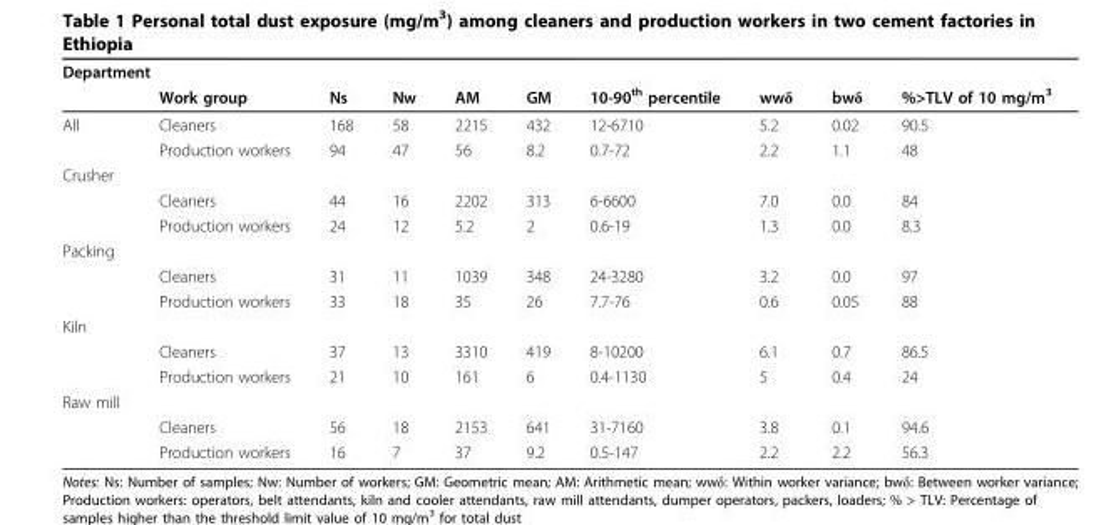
<table><thead><tr><td colspan="10">Department</td></tr><tr><td></td><td>Work group</td><td>Ns</td><td>Nw</td><td>AM</td><td>GM</td><td>10-90<sup>th</sup> percentile</td><td>wwδ</td><td>bwδ</td><td>%&gt;TLV of 10 mg/m<sup>3</sup></td></tr></thead><tbody><tr><td rowspan="2">All</td><td>Cleaners</td><td>168</td><td>58</td><td>2215</td><td>432</td><td>12-6710</td><td>5.2</td><td>0.02</td><td>90.5</td></tr><tr><td>Production workers</td><td>94</td><td>47</td><td>56</td><td>8.2</td><td>0.7-72</td><td>2.2</td><td>1.1</td><td>48</td></tr><tr><td colspan="10">Crusher</td></tr><tr><td></td><td>Cleaners</td><td>44</td><td>16</td><td>2202</td><td>313</td><td>6-6600</td><td>7.0</td><td>0.0</td><td>84</td></tr><tr><td></td><td>Production workers</td><td>24</td><td>12</td><td>5.2</td><td>2</td><td>0.6-19</td><td>1.3</td><td>0.0</td><td>8.3</td></tr><tr><td colspan="10">Packing</td></tr><tr><td></td><td>Cleaners</td><td>31</td><td>11</td><td>1039</td><td>348</td><td>24-3280</td><td>3.2</td><td>0.0</td><td>97</td></tr><tr><td></td><td>Production workers</td><td>33</td><td>18</td><td>35</td><td>26</td><td>7.7-76</td><td>0.6</td><td>0.05</td><td>88</td></tr><tr><td colspan="10">Kiln</td></tr><tr><td></td><td>Cleaners</td><td>37</td><td>13</td><td>3310</td><td>419</td><td>8-10200</td><td>6.1</td><td>0.7</td><td>86.5</td></tr><tr><td></td><td>Production workers</td><td>21</td><td>10</td><td>161</td><td>6</td><td>0.4-1130</td><td>5</td><td>0.4</td><td>24</td></tr><tr><td colspan="10">Raw mill</td></tr><tr><td></td><td>Cleaners</td><td>56</td><td>18</td><td>2153</td><td>641</td><td>31-7160</td><td>3.8</td><td>0.1</td><td>94.6</td></tr><tr><td></td><td>Production workers</td><td>16</td><td>7</td><td>37</td><td>9.2</td><td>0.5-147</td><td>2.2</td><td>2.2</td><td>56.3</td></tr></tbody></table>